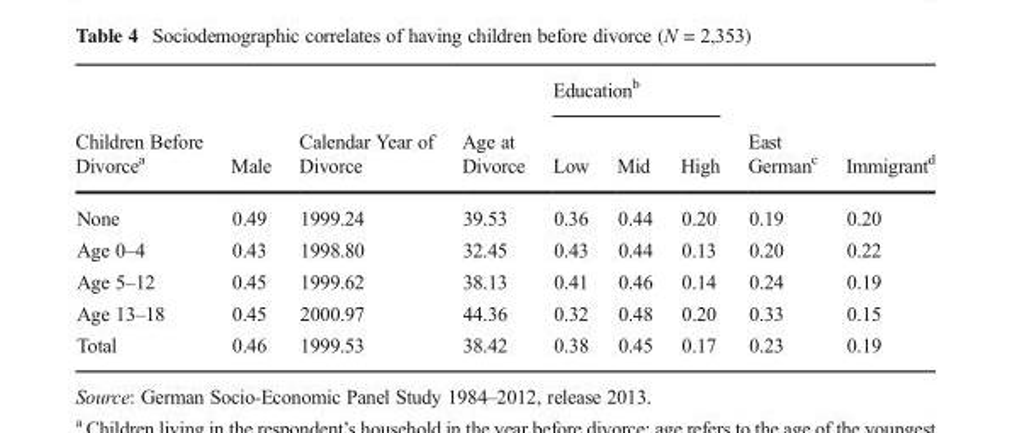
<table><thead><tr><td rowspan="2">Children Before Divorce<sup>a</sup></td><td rowspan="2">Male</td><td rowspan="2">Calendar Year of Divorce</td><td rowspan="2">Age at Divorce</td><td colspan="3">Education<sup>b</sup></td><td rowspan="2">East German<sup>c</sup></td><td rowspan="2">Immigrant<sup>d</sup></td></tr><tr><td>Low</td><td>Mid</td><td>High</td></tr></thead><tbody><tr><td>None</td><td>0.49</td><td>1999.24</td><td>39.53</td><td>0.36</td><td>0.44</td><td>0.20</td><td>0.19</td><td>0.20</td></tr><tr><td>Age 0–4</td><td>0.43</td><td>1998.80</td><td>32.45</td><td>0.43</td><td>0.44</td><td>0.13</td><td>0.20</td><td>0.22</td></tr><tr><td>Age 5–12</td><td>0.45</td><td>1999.62</td><td>38.13</td><td>0.41</td><td>0.46</td><td>0.14</td><td>0.24</td><td>0.19</td></tr><tr><td>Age 13–18</td><td>0.45</td><td>2000.97</td><td>44.36</td><td>0.32</td><td>0.48</td><td>0.20</td><td>0.33</td><td>0.15</td></tr><tr><td>Total</td><td>0.46</td><td>1999.53</td><td>38.42</td><td>0.38</td><td>0.45</td><td>0.17</td><td>0.23</td><td>0.19</td></tr></tbody></table>